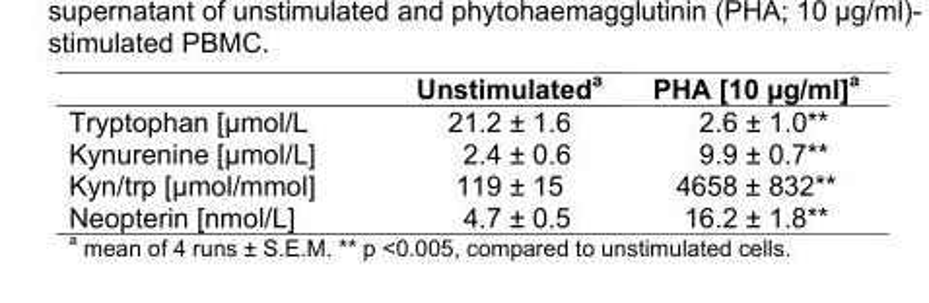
<table><thead><tr><td></td><td>Unstimulated<sup>a</sup></td><td>PHA [10 µg/ml]<sup>a</sup></td></tr></thead><tbody><tr><td>Tryptophan [µmol/L</td><td>21.2 ± 1.6</td><td>2.6 ± 1.0**</td></tr><tr><td>Kynurenine [µmol/L]</td><td>2.4 ± 0.6</td><td>9.9 ± 0.7**</td></tr><tr><td>Kyn/trp [µmol/mmol]</td><td>119 ± 15</td><td>4658 ± 832**</td></tr><tr><td>Neopterin [nmol/L]</td><td>4.7 ± 0.5</td><td>16.2 ± 1.8**</td></tr></tbody></table>